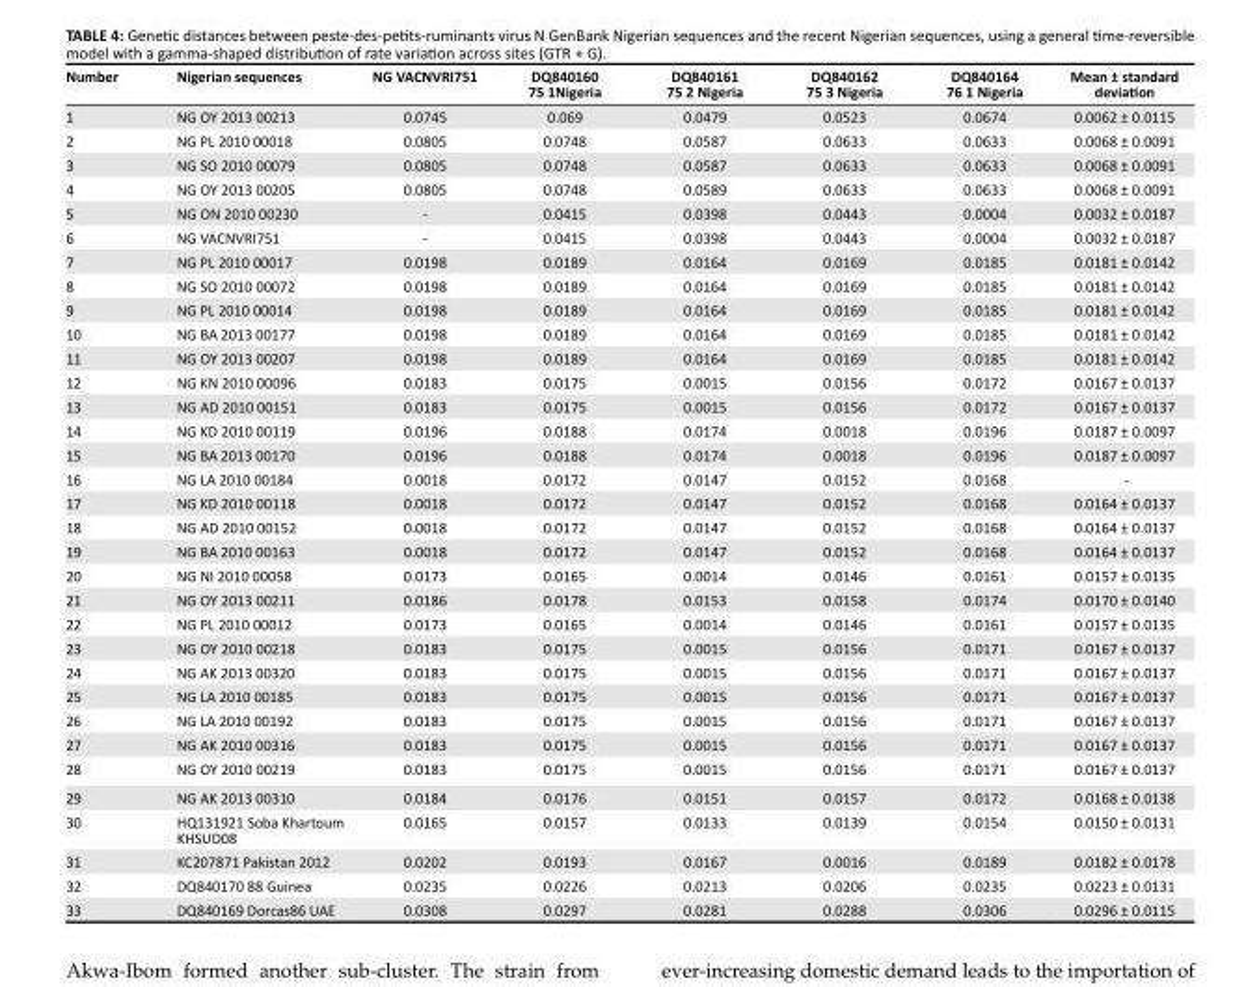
<table><thead><tr><td>Number</td><td>Nigerian sequences</td><td>NG VACNVRI751</td><td>DQ840160 75 1Nigeria</td><td>DQ840161 75 2 Nigeria</td><td>DQ840162 75 3 Nigeria</td><td>DQ840164 76 1 Nigeria</td><td>Mean ± standard deviation</td></tr></thead><tbody><tr><td>1</td><td>NG OY 2013 00213</td><td>0.0745</td><td>0.069</td><td>0.0479</td><td>0.0523</td><td>0.0674</td><td>0.0062 ± 0.0115</td></tr><tr><td>2</td><td>NG PL 2010 00018</td><td>0.0805</td><td>0.0748</td><td>0.0587</td><td>0.0633</td><td>0.0633</td><td>0.0068 ± 0.0091</td></tr><tr><td>3</td><td>NG SO 2010 00079</td><td>0.0805</td><td>0.0748</td><td>0.0587</td><td>0.0633</td><td>0.0633</td><td>0.0068 ± 0.0091</td></tr><tr><td>4</td><td>NG OY 2013 00205</td><td>0.0805</td><td>0.0748</td><td>0.0589</td><td>0.0633</td><td>0.0633</td><td>0.0068 ± 0.0091</td></tr><tr><td>5</td><td>NG ON 2010 00230</td><td>-</td><td>0.0415</td><td>0.0398</td><td>0.0443</td><td>0.0004</td><td>0.0032 ± 0.0187</td></tr><tr><td>6</td><td>NG VACNVRI751</td><td>-</td><td>0.0415</td><td>0.0398</td><td>0.0443</td><td>0.0004</td><td>0.0032 ± 0.0187</td></tr><tr><td>7</td><td>NG PL 2010 00017</td><td>0.0198</td><td>0.0189</td><td>0.0164</td><td>0.0169</td><td>0.0185</td><td>0.0181 ± 0.0142</td></tr><tr><td>8</td><td>NG SO 2010 00072</td><td>0.0198</td><td>0.0189</td><td>0.0164</td><td>0.0169</td><td>0.0185</td><td>0.0181 ± 0.0142</td></tr><tr><td>9</td><td>NG PL 2010 00014</td><td>0.0198</td><td>0.0189</td><td>0.0164</td><td>0.0169</td><td>0.0185</td><td>0.0181 ± 0.0142</td></tr><tr><td>10</td><td>NG BA 2013 00177</td><td>0.0198</td><td>0.0189</td><td>0.0164</td><td>0.0169</td><td>0.0185</td><td>0.0181 ± 0.0142</td></tr><tr><td>11</td><td>NG OY 2013 00207</td><td>0.0198</td><td>0.0189</td><td>0.0164</td><td>0.0169</td><td>0.0185</td><td>0.0181 ± 0.0142</td></tr><tr><td>12</td><td>NG KN 2010 00096</td><td>0.0183</td><td>0.0175</td><td>0.0015</td><td>0.0156</td><td>0.0172</td><td>0.0167 ± 0.0137</td></tr><tr><td>13</td><td>NG AD 2010 00151</td><td>0.0183</td><td>0.0175</td><td>0.0015</td><td>0.0156</td><td>0.0172</td><td>0.0167 ± 0.0137</td></tr><tr><td>14</td><td>NG KD 2010 00119</td><td>0.0196</td><td>0.0188</td><td>0.0174</td><td>0.0018</td><td>0.0196</td><td>0.0187 ± 0.0097</td></tr><tr><td>15</td><td>NG BA 2013 00170</td><td>0.0196</td><td>0.0188</td><td>0.0174</td><td>0.0018</td><td>0.0196</td><td>0.0187 ± 0.0097</td></tr><tr><td>16</td><td>NG LA 2010 00184</td><td>0.0018</td><td>0.0172</td><td>0.0147</td><td>0.0152</td><td>0.0168</td><td>-</td></tr><tr><td>17</td><td>NG KD 2010 00118</td><td>0.0018</td><td>0.0172</td><td>0.0147</td><td>0.0152</td><td>0.0168</td><td>0.0164 ± 0.0137</td></tr><tr><td>18</td><td>NG AD 2010 00152</td><td>0.0018</td><td>0.0172</td><td>0.0147</td><td>0.0152</td><td>0.0168</td><td>0.0164 ± 0.0137</td></tr><tr><td>19</td><td>NG BA 2010 00163</td><td>0.0018</td><td>0.0172</td><td>0.0147</td><td>0.0152</td><td>0.0168</td><td>0.0164 ± 0.0137</td></tr><tr><td>20</td><td>NG NI 2010 00058</td><td>0.0173</td><td>0.0165</td><td>0.0014</td><td>0.0146</td><td>0.0161</td><td>0.0157 ± 0.0135</td></tr><tr><td>21</td><td>NG OY 2013 00211</td><td>0.0186</td><td>0.0178</td><td>0.0153</td><td>0.0158</td><td>0.0174</td><td>0.0170 ± 0.0140</td></tr><tr><td>22</td><td>NG PL 2010 00012</td><td>0.0173</td><td>0.0165</td><td>0.0014</td><td>0.0146</td><td>0.0161</td><td>0.0157 ± 0.0135</td></tr><tr><td>23</td><td>NG OY 2010 00218</td><td>0.0183</td><td>0.0175</td><td>0.0015</td><td>0.0156</td><td>0.0171</td><td>0.0167 ± 0.0137</td></tr><tr><td>24</td><td>NG AK 2013 00320</td><td>0.0183</td><td>0.0175</td><td>0.0015</td><td>0.0156</td><td>0.0171</td><td>0.0167 ± 0.0137</td></tr><tr><td>25</td><td>NG LA 2010 00185</td><td>0.0183</td><td>0.0175</td><td>0.0015</td><td>0.0156</td><td>0.0171</td><td>0.0167 ± 0.0137</td></tr><tr><td>26</td><td>NG LA 2010 00192</td><td>0.0183</td><td>0.0175</td><td>0.0015</td><td>0.0156</td><td>0.0171</td><td>0.0167 ± 0.0137</td></tr><tr><td>27</td><td>NG AK 2010 00316</td><td>0.0183</td><td>0.0175</td><td>0.0015</td><td>0.0156</td><td>0.0171</td><td>0.0167 ± 0.0137</td></tr><tr><td>28</td><td>NG OY 2010 00219</td><td>0.0183</td><td>0.0175</td><td>0.0015</td><td>0.0156</td><td>0.0171</td><td>0.0167 ± 0.0137</td></tr><tr><td>29</td><td>NG AK 2013 00310</td><td>0.0184</td><td>0.0176</td><td>0.0151</td><td>0.0157</td><td>0.0172</td><td>0.0168 ± 0.0138</td></tr><tr><td>30</td><td>HQ131921 Soba Khartoum KHSUD08</td><td>0.0165</td><td>0.0157</td><td>0.0133</td><td>0.0139</td><td>0.0154</td><td>0.0150 ± 0.0131</td></tr><tr><td>31</td><td>KC207871 Pakistan 2012</td><td>0.0202</td><td>0.0193</td><td>0.0167</td><td>0.0016</td><td>0.0189</td><td>0.0182 ± 0.0178</td></tr><tr><td>32</td><td>DQ840170 88 Guinea</td><td>0.0235</td><td>0.0226</td><td>0.0213</td><td>0.0206</td><td>0.0235</td><td>0.0223 ± 0.0131</td></tr><tr><td>33</td><td>DQ840169 Dorcas86 UAE</td><td>0.0308</td><td>0.0297</td><td>0.0281</td><td>0.0288</td><td>0.0306</td><td>0.0296 ± 0.0115</td></tr></tbody></table>